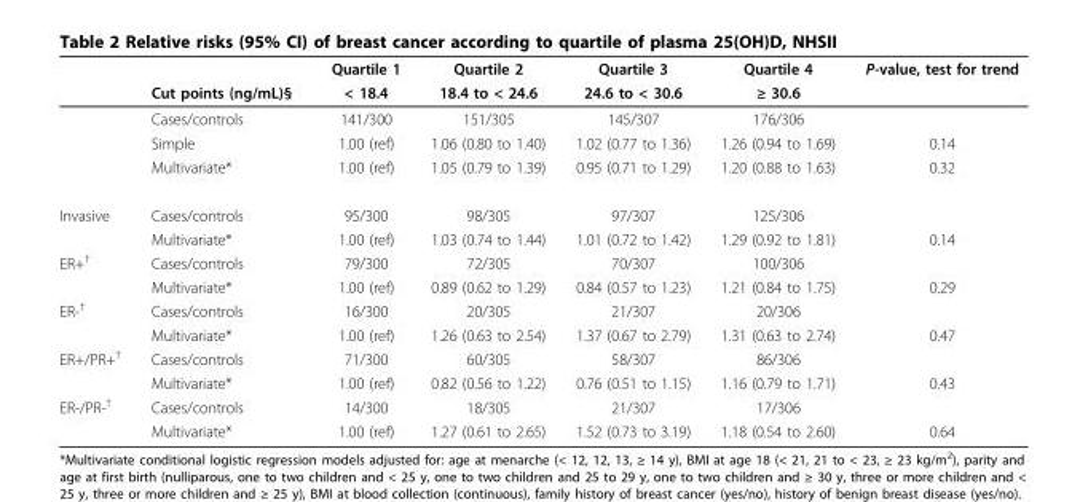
<table><thead><tr><td rowspan="2"></td><td rowspan="2">Cut points (ng/mL)§</td><td rowspan="2">Quartile 1 &lt; 18.4</td><td rowspan="2">Quartile 2 18.4 to &lt; 24.6</td><td rowspan="2">Quartile 3 24.6 to &lt; 30.6</td><td rowspan="2">Quartile 4 ≥ 30.6</td><td rowspan="2">P-value, test for trend</td></tr><tr></tr></thead><tbody><tr><td></td><td>Cases/controls</td><td>141/300</td><td>151/305</td><td>145/307</td><td>176/306</td><td></td></tr><tr><td></td><td>Simple</td><td>1.00 (ref)</td><td>1.06 (0.80 to 1.40)</td><td>1.02 (0.77 to 1.36)</td><td>1.26 (0.94 to 1.69)</td><td>0.14</td></tr><tr><td></td><td>Multivariate*</td><td>1.00 (ref)</td><td>1.05 (0.79 to 1.39)</td><td>0.95 (0.71 to 1.29)</td><td>1.20 (0.88 to 1.63)</td><td>0.32</td></tr><tr><td rowspan="2">Invasive</td><td>Cases/controls</td><td>95/300</td><td>98/305</td><td>97/307</td><td>125/306</td><td></td></tr><tr><td>Multivariate*</td><td>1.00 (ref)</td><td>1.03 (0.74 to 1.44)</td><td>1.01 (0.72 to 1.42)</td><td>1.29 (0.92 to 1.81)</td><td>0.14</td></tr><tr><td rowspan="2">ER+<sup>†</sup></td><td>Cases/controls</td><td>79/300</td><td>72/305</td><td>70/307</td><td>100/306</td><td></td></tr><tr><td>Multivariate*</td><td>1.00 (ref)</td><td>0.89 (0.62 to 1.29)</td><td>0.84 (0.57 to 1.23)</td><td>1.21 (0.84 to 1.75)</td><td>0.29</td></tr><tr><td rowspan="2">ER-<sup>†</sup></td><td>Cases/controls</td><td>16/300</td><td>20/305</td><td>21/307</td><td>20/306</td><td></td></tr><tr><td>Multivariate*</td><td>1.00 (ref)</td><td>1.26 (0.63 to 2.54)</td><td>1.37 (0.67 to 2.79)</td><td>1.31 (0.63 to 2.74)</td><td>0.47</td></tr><tr><td rowspan="2">ER+/PR+<sup>†</sup></td><td>Cases/controls</td><td>71/300</td><td>60/305</td><td>58/307</td><td>86/306</td><td></td></tr><tr><td>Multivariate*</td><td>1.00 (ref)</td><td>0.82 (0.56 to 1.22)</td><td>0.76 (0.51 to 1.15)</td><td>1.16 (0.79 to 1.71)</td><td>0.43</td></tr><tr><td rowspan="2">ER-/PR-<sup>†</sup></td><td>Cases/controls</td><td>14/300</td><td>18/305</td><td>21/307</td><td>17/306</td><td></td></tr><tr><td>Multivariate*</td><td>1.00 (ref)</td><td>1.27 (0.61 to 2.65)</td><td>1.52 (0.73 to 3.19)</td><td>1.18 (0.54 to 2.60)</td><td>0.64</td></tr></tbody></table>